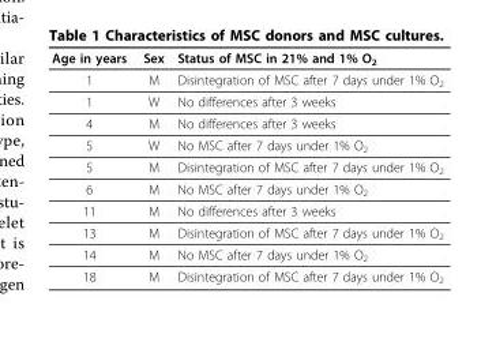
<table><thead><tr><td>Age in years</td><td>Sex</td><td>Status of MSC in 21% and 1% O<sub>2</sub></td></tr></thead><tbody><tr><td>1</td><td>M</td><td>Disintegration of MSC after 7 days under 1% O<sub>2</sub></td></tr><tr><td>1</td><td>W</td><td>No differences after 3 weeks</td></tr><tr><td>4</td><td>M</td><td>No differences after 3 weeks</td></tr><tr><td>5</td><td>W</td><td>No MSC after 7 days under 1% O<sub>2</sub></td></tr><tr><td>5</td><td>M</td><td>Disintegration of MSC after 7 days under 1% O<sub>2</sub></td></tr><tr><td>6</td><td>M</td><td>No MSC after 7 days under 1% O<sub>2</sub></td></tr><tr><td>11</td><td>M</td><td>No differences after 3 weeks</td></tr><tr><td>13</td><td>M</td><td>Disintegration of MSC after 7 days under 1% O<sub>2</sub></td></tr><tr><td>14</td><td>M</td><td>No MSC after 7 days under 1% O<sub>2</sub></td></tr><tr><td>18</td><td>M</td><td>Disintegration of MSC after 7 days under 1% O<sub>2</sub></td></tr></tbody></table>